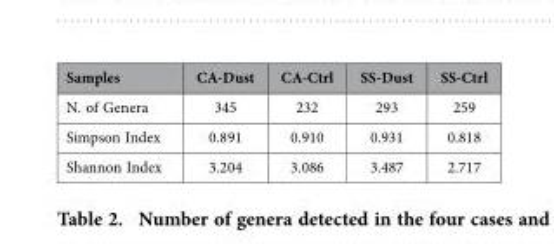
<table><thead><tr><td>Samples</td><td>CA-Dust</td><td>CA-Ctrl</td><td>SS-Dust</td><td>SS-Ctrl</td></tr></thead><tbody><tr><td>N. of Genera</td><td>345</td><td>232</td><td>293</td><td>259</td></tr><tr><td>Simpson Index</td><td>0.891</td><td>0.910</td><td>0.931</td><td>0.818</td></tr><tr><td>Shannon Index</td><td>3.204</td><td>3.086</td><td>3.487</td><td>2.717</td></tr></tbody></table>